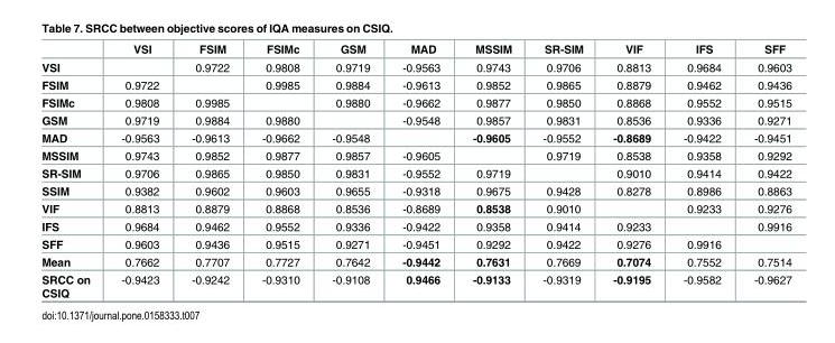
<table><thead><tr><td></td><td>VSI</td><td>FSIM</td><td>FSIMc</td><td>GSM</td><td>MAD</td><td>MSSIM</td><td>SR-SIM</td><td>VIF</td><td>IFS</td><td>SFF</td></tr></thead><tbody><tr><td>VSI</td><td></td><td>0.9722</td><td>0.9808</td><td>0.9719</td><td>-0.9563</td><td>0.9743</td><td>0.9706</td><td>0.8813</td><td>0.9684</td><td>0.9603</td></tr><tr><td>FSIM</td><td>0.9722</td><td></td><td>0.9985</td><td>0.9884</td><td>-0.9613</td><td>0.9852</td><td>0.9865</td><td>0.8879</td><td>0.9462</td><td>0.9436</td></tr><tr><td>FSIMc</td><td>0.9808</td><td>0.9985</td><td></td><td>0.9880</td><td>-0.9662</td><td>0.9877</td><td>0.9850</td><td>0.8868</td><td>0.9552</td><td>0.9515</td></tr><tr><td>GSM</td><td>0.9719</td><td>0.9884</td><td>0.9880</td><td></td><td>-0.9548</td><td>0.9857</td><td>0.9831</td><td>0.8536</td><td>0.9336</td><td>0.9271</td></tr><tr><td>MAD</td><td>-0.9563</td><td>-0.9613</td><td>-0.9662</td><td>-0.9548</td><td></td><td>-0.9605</td><td>-0.9552</td><td>-0.8689</td><td>-0.9422</td><td>-0.9451</td></tr><tr><td>MSSIM</td><td>0.9743</td><td>0.9852</td><td>0.9877</td><td>0.9857</td><td>-0.9605</td><td></td><td>0.9719</td><td>0.8538</td><td>0.9358</td><td>0.9292</td></tr><tr><td>SR-SIM</td><td>0.9706</td><td>0.9865</td><td>0.9850</td><td>0.9831</td><td>-0.9552</td><td>0.9719</td><td></td><td>0.9010</td><td>0.9414</td><td>0.9422</td></tr><tr><td>SSIM</td><td>0.9382</td><td>0.9602</td><td>0.9603</td><td>0.9655</td><td>-0.9318</td><td>0.9675</td><td>0.9428</td><td>0.8278</td><td>0.8986</td><td>0.8863</td></tr><tr><td>VIF</td><td>0.8813</td><td>0.8879</td><td>0.8868</td><td>0.8536</td><td>-0.8689</td><td>0.8538</td><td>0.9010</td><td></td><td>0.9233</td><td>0.9276</td></tr><tr><td>IFS</td><td>0.9684</td><td>0.9462</td><td>0.9552</td><td>0.9336</td><td>-0.9422</td><td>0.9358</td><td>0.9414</td><td>0.9233</td><td></td><td>0.9916</td></tr><tr><td>SFF</td><td>0.9603</td><td>0.9436</td><td>0.9515</td><td>0.9271</td><td>-0.9451</td><td>0.9292</td><td>0.9422</td><td>0.9276</td><td>0.9916</td><td></td></tr><tr><td>Mean</td><td>0.7662</td><td>0.7707</td><td>0.7727</td><td>0.7642</td><td>-0.9442</td><td>0.7631</td><td>0.7669</td><td>0.7074</td><td>0.7552</td><td>0.7514</td></tr><tr><td>SRCC on CSIQ</td><td>-0.9423</td><td>-0.9242</td><td>-0.9310</td><td>-0.9108</td><td>0.9466</td><td>-0.9133</td><td>-0.9319</td><td>-0.9195</td><td>-0.9582</td><td>-0.9627</td></tr></tbody></table>